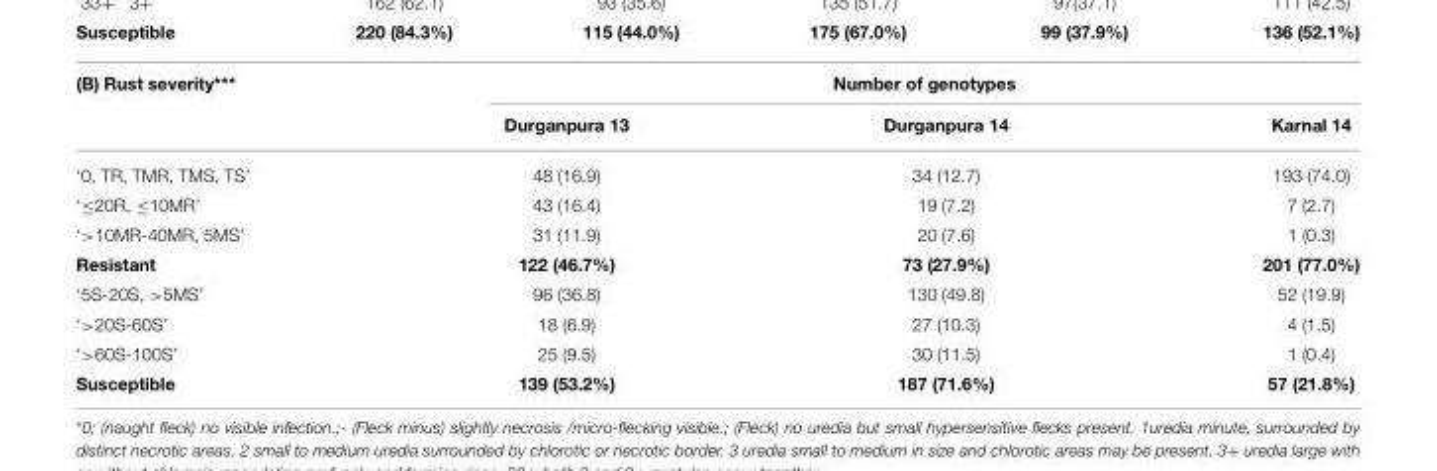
<table><thead><tr><td rowspan="2">(B) Rust severity***</td><td colspan="3">Number of genotypes</td></tr><tr><td>Durganpura 13</td><td>Durganpura 14</td><td>Karnal 14</td></tr></thead><tbody><tr><td>‘0, TR, TMR, TMS, TS’</td><td>48 (16.9)</td><td>34 (12.7)</td><td>193 (74.0)</td></tr><tr><td>‘≤20R, ≤10MR’</td><td>43 (16.4)</td><td>19 (7.2)</td><td>7 (2.7)</td></tr><tr><td>‘&gt;10MR-40MR, 5MS’</td><td>31 (11.9)</td><td>20 (7.6)</td><td>1 (0.3)</td></tr><tr><td>Resistant</td><td>122 (46.7%)</td><td>73 (27.9%)</td><td>201 (77.0%)</td></tr><tr><td>‘5S-20S, &gt;5MS’</td><td>96 (36.8)</td><td>130 (49.8)</td><td>52 (19.9)</td></tr><tr><td>‘&gt;20S-60S’</td><td>18 (6.9)</td><td>27 (10.3)</td><td>4 (1.5)</td></tr><tr><td>‘&gt;60S-100S’</td><td>25 (9.5)</td><td>30 (11.5)</td><td>1 (0.4)</td></tr><tr><td>Susceptible</td><td>139 (53.2%)</td><td>187 (71.6%)</td><td>57 (21.8%)</td></tr></tbody></table>